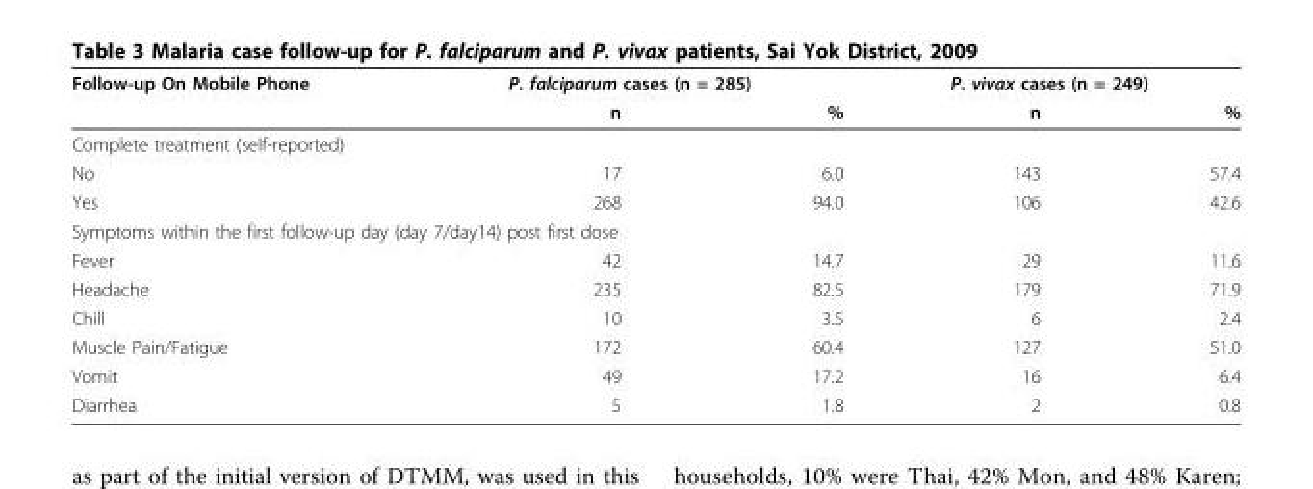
<table><thead><tr><td rowspan="2">Follow-up On Mobile Phone</td><td colspan="2">P. falciparum cases (n = 285)</td><td colspan="2">P. vivax cases (n = 249)</td></tr><tr><td>n</td><td>%</td><td>n</td><td>%</td></tr></thead><tbody><tr><td colspan="5">Complete treatment (self-reported)</td></tr><tr><td>No</td><td>17</td><td>6.0</td><td>143</td><td>57.4</td></tr><tr><td>Yes</td><td>268</td><td>94.0</td><td>106</td><td>42.6</td></tr><tr><td colspan="5">Symptoms within the first follow-up day (day 7/day14) post first dose</td></tr><tr><td>Fever</td><td>42</td><td>14.7</td><td>29</td><td>11.6</td></tr><tr><td>Headache</td><td>235</td><td>82.5</td><td>179</td><td>71.9</td></tr><tr><td>Chill</td><td>10</td><td>3.5</td><td>6</td><td>2.4</td></tr><tr><td>Muscle Pain/Fatigue</td><td>172</td><td>60.4</td><td>127</td><td>51.0</td></tr><tr><td>Vomit</td><td>49</td><td>17.2</td><td>16</td><td>6.4</td></tr><tr><td>Diarrhea</td><td>5</td><td>1.8</td><td>2</td><td>0.8</td></tr></tbody></table>